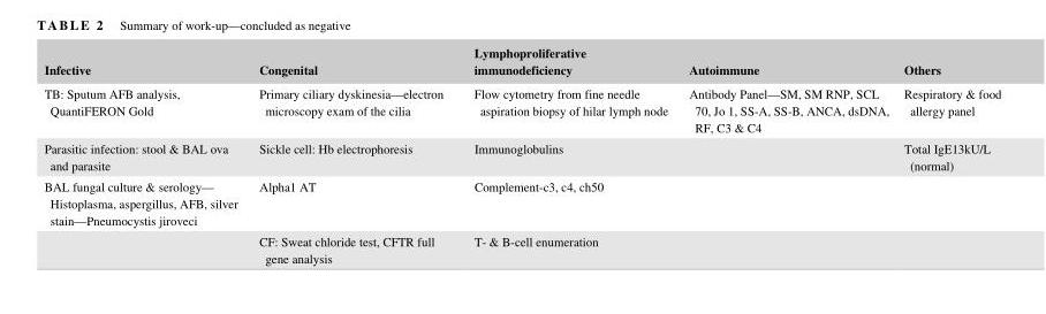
<table><thead><tr><td>Infective</td><td>Congenital</td><td>Lymphoproliferative immunodeficiency</td><td>Autoimmune</td><td>Others</td></tr></thead><tbody><tr><td>TB: Sputum AFB analysis, QuantiFERON Gold</td><td>Primary ciliary dyskinesia—electron microscopy exam of the cilia</td><td>Flow cytometry from fine needle aspiration biopsy of hilar lymph node</td><td>Antibody Panel—SM, SM RNP, SCL 70, Jo 1, SS‐A, SS‐B, ANCA, dsDNA, RF, C3 &amp; C4</td><td>Respiratory &amp; food allergy panel</td></tr><tr><td>Parasitic infection: stool &amp; BAL ova and parasite</td><td>Sickle cell: Hb electrophoresis</td><td>Immunoglobulins</td><td></td><td>Total IgE13kU/L (normal)</td></tr><tr><td rowspan="2">BAL fungal culture &amp; serology— Histoplasma, aspergillus, AFB, silver stain—Pneumocystis jiroveci</td><td>Alpha1 AT</td><td>Complement‐c3, c4, ch50</td><td></td><td></td></tr><tr><td>CF: Sweat chloride test, CFTR full gene analysis</td><td>T‐ &amp; B‐cell enumeration</td><td></td><td></td></tr></tbody></table>